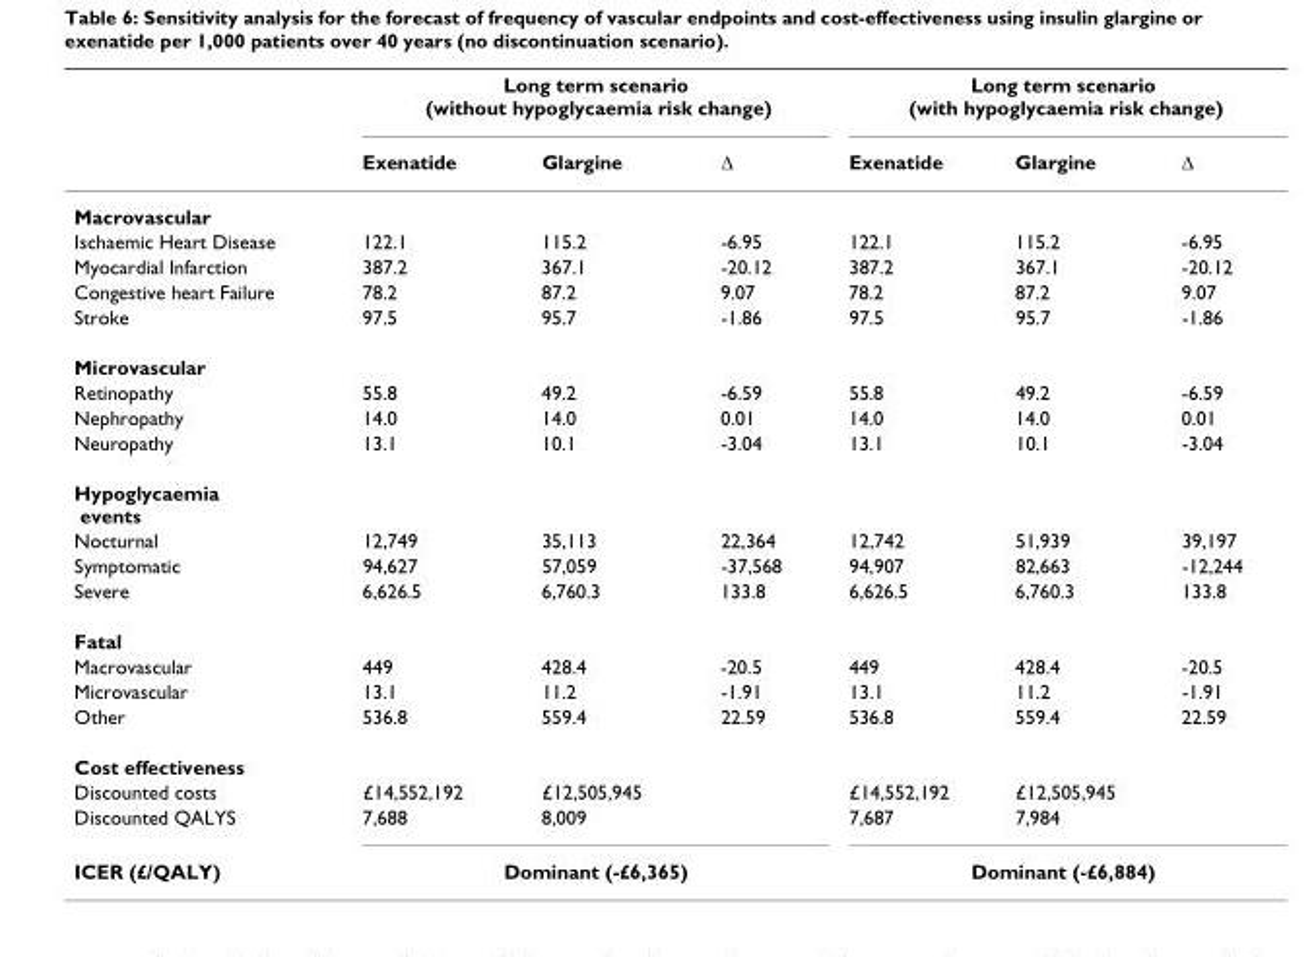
<table><thead><tr><td rowspan="2"></td><td colspan="3">Long term scenario (without hypoglycaemia risk change)</td><td colspan="3">Long term scenario (with hypoglycaemia risk change)</td></tr><tr><td>Exenatide</td><td>Glargine</td><td>Δ</td><td>Exenatide</td><td>Glargine</td><td>Δ</td></tr></thead><tbody><tr><td colspan="7">Macrovascular</td></tr><tr><td>Ischaemic Heart Disease</td><td>122.1</td><td>115.2</td><td>-6.95</td><td>122.1</td><td>115.2</td><td>-6.95</td></tr><tr><td>Myocardial Infarction</td><td>387.2</td><td>367.1</td><td>-20.12</td><td>387.2</td><td>367.1</td><td>-20.12</td></tr><tr><td>Congestive heart Failure</td><td>78.2</td><td>87.2</td><td>9.07</td><td>78.2</td><td>87.2</td><td>9.07</td></tr><tr><td>Stroke</td><td>97.5</td><td>95.7</td><td>-1.86</td><td>97.5</td><td>95.7</td><td>-1.86</td></tr><tr><td colspan="7">Microvascular</td></tr><tr><td>Retinopathy</td><td>55.8</td><td>49.2</td><td>-6.59</td><td>55.8</td><td>49.2</td><td>-6.59</td></tr><tr><td>Nephropathy</td><td>14.0</td><td>14.0</td><td>0.01</td><td>14.0</td><td>14.0</td><td>0.01</td></tr><tr><td>Neuropathy</td><td>13.1</td><td>10.1</td><td>-3.04</td><td>13.1</td><td>10.1</td><td>-3.04</td></tr><tr><td colspan="7">Hypoglycaemia events</td></tr><tr><td>Nocturnal</td><td>12,749</td><td>35,113</td><td>22,364</td><td>12,742</td><td>51,939</td><td>39,197</td></tr><tr><td>Symptomatic</td><td>94,627</td><td>57,059</td><td>-37,568</td><td>94,907</td><td>82,663</td><td>-12,244</td></tr><tr><td>Severe</td><td>6,626.5</td><td>6,760.3</td><td>133.8</td><td>6,626.5</td><td>6,760.3</td><td>133.8</td></tr><tr><td colspan="7">Fatal</td></tr><tr><td>Macrovascular</td><td>449</td><td>428.4</td><td>-20.5</td><td>449</td><td>428.4</td><td>-20.5</td></tr><tr><td>Microvascular</td><td>13.1</td><td>11.2</td><td>-1.91</td><td>13.1</td><td>11.2</td><td>-1.91</td></tr><tr><td>Other</td><td>536.8</td><td>559.4</td><td>22.59</td><td>536.8</td><td>559.4</td><td>22.59</td></tr><tr><td colspan="7">Cost effectiveness</td></tr><tr><td>Discounted costs</td><td>£14,552,192</td><td>£12,505,945</td><td></td><td>£14,552,192</td><td>£12,505,945</td><td></td></tr><tr><td>Discounted QALYS</td><td>7,688</td><td>8,009</td><td></td><td>7,687</td><td>7,984</td><td></td></tr><tr><td>ICER (£/QALY)</td><td colspan="3">Dominant (-£6,365)</td><td colspan="3">Dominant (-£6,884)</td></tr></tbody></table>